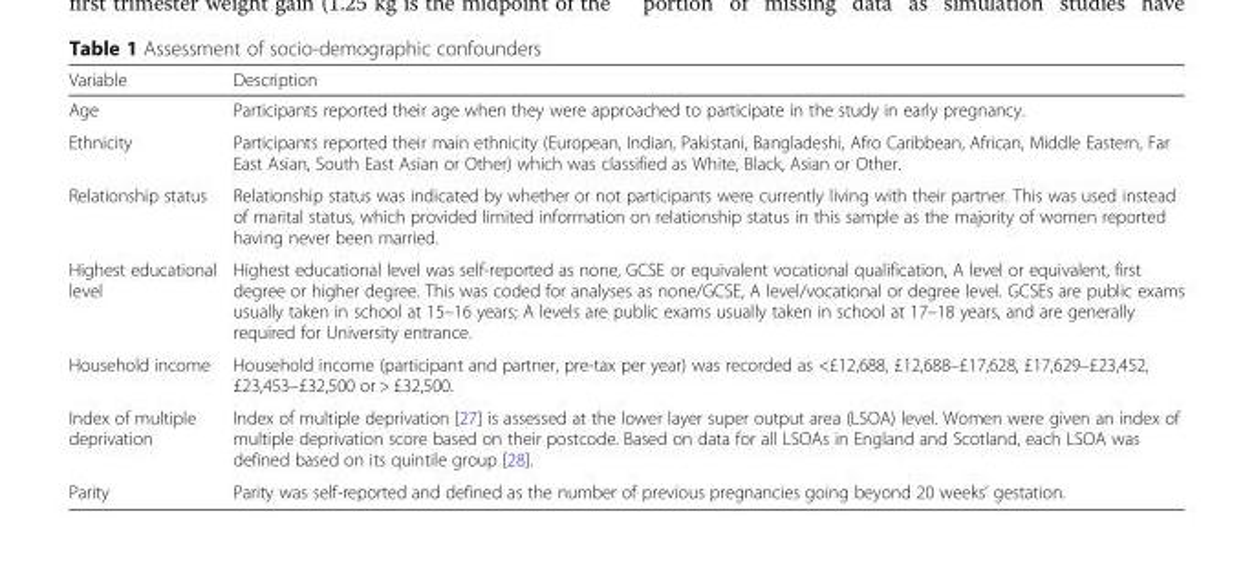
<table><thead><tr><td>Variable</td><td>Description</td></tr></thead><tbody><tr><td>Age</td><td>Participants reported their age when they were approached to participate in the study in early pregnancy.</td></tr><tr><td>Ethnicity</td><td>Participants reported their main ethnicity (European, Indian, Pakistani, Bangladeshi, Afro Caribbean, African, Middle Eastern, Far East Asian, South East Asian or Other) which was classified as White, Black, Asian or Other.</td></tr><tr><td>Relationship status</td><td>Relationship status was indicated by whether or not participants were currently living with their partner. This was used instead of marital status, which provided limited information on relationship status in this sample as the majority of women reported having never been married.</td></tr><tr><td>Highest educational level</td><td>Highest educational level was self-reported as none, GCSE or equivalent vocational qualification, A level or equivalent, first degree or higher degree. This was coded for analyses as none/GCSE, A level/vocational or degree level. GCSEs are public exams usually taken in school at 15–16 years; A levels are public exams usually taken in school at 17–18 years, and are generally required for University entrance.</td></tr><tr><td>Household income</td><td>Household income (participant and partner, pre-tax per year) was recorded as &lt;£12,688, £12,688–£17,628, £17,629–£23,452, £23,453–£32,500 or &gt; £32,500.</td></tr><tr><td>Index of multiple deprivation</td><td>Index of multiple deprivation [27] is assessed at the lower layer super output area (LSOA) level. Women were given an index of multiple deprivation score based on their postcode. Based on data for all LSOAs in England and Scotland, each LSOA was defined based on its quintile group [28].</td></tr><tr><td>Parity</td><td>Parity was self-reported and defined as the number of previous pregnancies going beyond 20 weeks’ gestation.</td></tr></tbody></table>